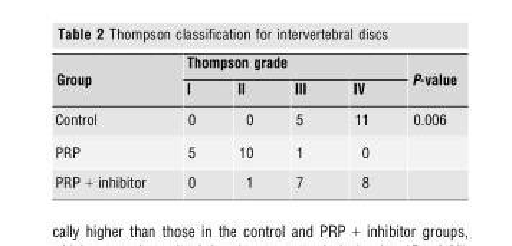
<table><thead><tr><td rowspan="2">Group</td><td colspan="4">Thompson grade</td><td rowspan="2">P-value</td></tr><tr><td>I</td><td>II</td><td>III</td><td>IV</td></tr></thead><tbody><tr><td>Control</td><td>0</td><td>0</td><td>5</td><td>11</td><td>0.006</td></tr><tr><td>PRP</td><td>5</td><td>10</td><td>1</td><td>0</td><td></td></tr><tr><td>PRP + inhibitor</td><td>0</td><td>1</td><td>7</td><td>8</td><td></td></tr></tbody></table>